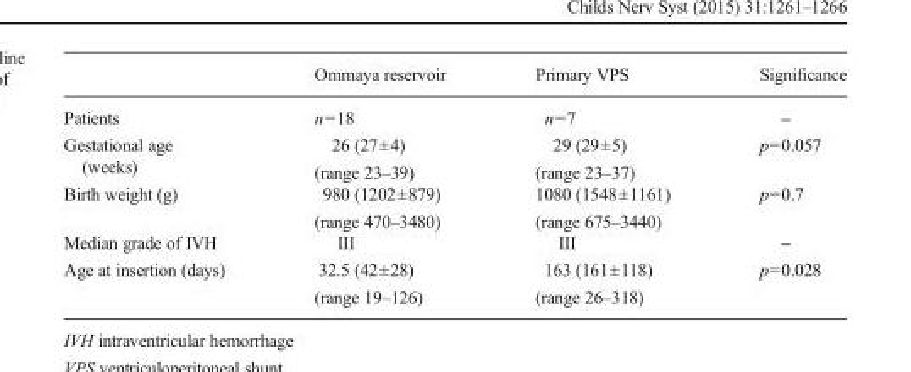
<table><thead><tr><td></td><td>Ommaya reservoir</td><td>Primary VPS</td><td>Significance</td></tr></thead><tbody><tr><td>Patients</td><td>n=18</td><td>n=7</td><td>–</td></tr><tr><td>Gestational age (weeks)</td><td>26 (27±4) (range 23–39)</td><td>29 (29±5) (range 23–37)</td><td>p=0.057</td></tr><tr><td>Birth weight (g)</td><td>980 (1202±879) (range 470–3480)</td><td>1080 (1548±1161) (range 675–3440)</td><td>p=0.7</td></tr><tr><td>Median grade of IVH</td><td>III</td><td>III</td><td>–</td></tr><tr><td>Age at insertion (days)</td><td>32.5 (42±28) (range 19–126)</td><td>163 (161±118) (range 26–318)</td><td>p=0.028</td></tr></tbody></table>